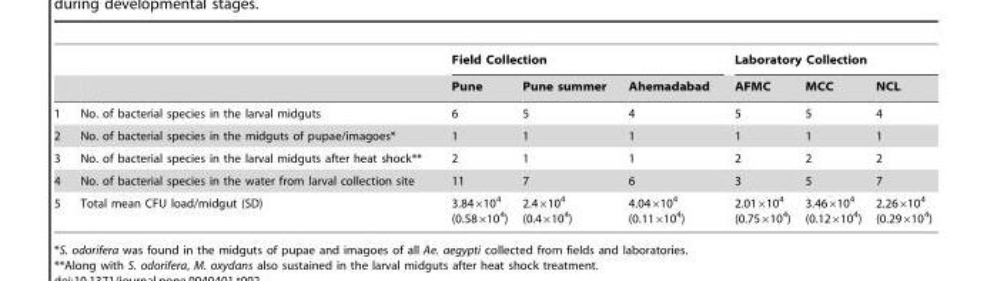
<table><thead><tr><td rowspan="2"></td><td rowspan="2"></td><td colspan="3">Field Collection</td><td colspan="3">Laboratory Collection</td></tr><tr><td>Pune</td><td>Pune summer</td><td>Ahemadabad</td><td>AFMC</td><td>MCC</td><td>NCL</td></tr></thead><tbody><tr><td>1</td><td>No. of bacterial species in the larval midguts</td><td>6</td><td>5</td><td>4</td><td>5</td><td>5</td><td>4</td></tr><tr><td>2</td><td>No. of bacterial species in the midguts of pupae/imagoes*</td><td>1</td><td>1</td><td>1</td><td>1</td><td>1</td><td>1</td></tr><tr><td>3</td><td>No. of bacterial species in the larval midguts after heat shock**</td><td>2</td><td>1</td><td>1</td><td>2</td><td>2</td><td>2</td></tr><tr><td>4</td><td>No. of bacterial species in the water from larval collection site</td><td>11</td><td>7</td><td>6</td><td>3</td><td>5</td><td>7</td></tr><tr><td>5</td><td>Total mean CFU load/midgut (SD)</td><td>3.84×10<sup>4</sup> (0.58×10<sup>4</sup>)</td><td>2.4×10<sup>4</sup> (0.4×10<sup>4</sup>)</td><td>4.04×10<sup>4</sup> (0.11×10<sup>4</sup>)</td><td>2.01×10<sup>4</sup> (0.75×10<sup>4</sup>)</td><td>3.46×10<sup>4</sup> (0.12×10<sup>4</sup>)</td><td>2.26×10<sup>4</sup> (0.29×10<sup>4</sup>)</td></tr></tbody></table>